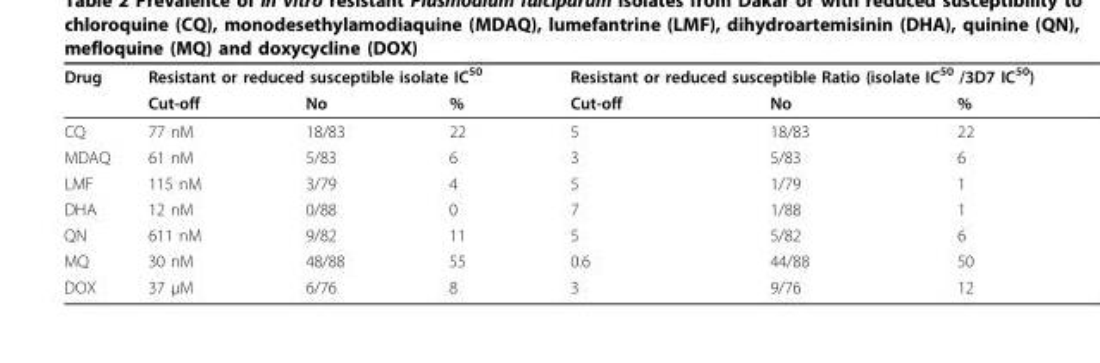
<table><thead><tr><td rowspan="2">Drug</td><td colspan="3">Resistant or reduced susceptible isolate IC<sup>50</sup></td><td colspan="3">Resistant or reduced susceptible Ratio (isolate IC<sup>50</sup> /3D7 IC<sup>50</sup>)</td></tr><tr><td>Cut-off</td><td>No</td><td>%</td><td>Cut-off</td><td>No</td><td>%</td></tr></thead><tbody><tr><td>CQ</td><td>77 nM</td><td>18/83</td><td>22</td><td>5</td><td>18/83</td><td>22</td></tr><tr><td>MDAQ</td><td>61 nM</td><td>5/83</td><td>6</td><td>3</td><td>5/83</td><td>6</td></tr><tr><td>LMF</td><td>115 nM</td><td>3/79</td><td>4</td><td>5</td><td>1/79</td><td>1</td></tr><tr><td>DHA</td><td>12 nM</td><td>0/88</td><td>0</td><td>7</td><td>1/88</td><td>1</td></tr><tr><td>QN</td><td>611 nM</td><td>9/82</td><td>11</td><td>5</td><td>5/82</td><td>6</td></tr><tr><td>MQ</td><td>30 nM</td><td>48/88</td><td>55</td><td>0.6</td><td>44/88</td><td>50</td></tr><tr><td>DOX</td><td>37 μM</td><td>6/76</td><td>8</td><td>3</td><td>9/76</td><td>12</td></tr></tbody></table>